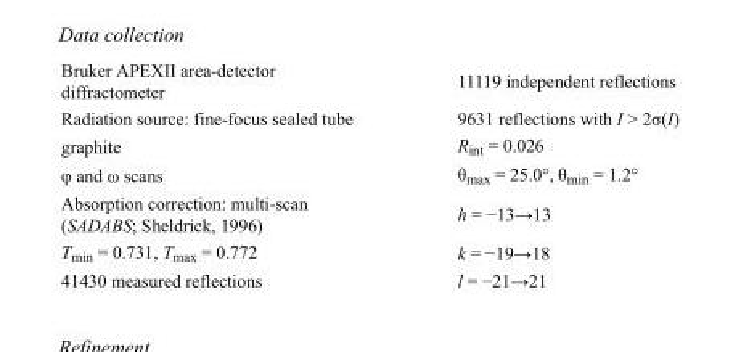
<table><tbody><tr><td>Bruker APEXII area-detector diffractometer</td><td>11119 independent reflections</td></tr><tr><td>Radiation source: fine-focus sealed tube</td><td>9631 reflections with I &gt; 2σ(I)</td></tr><tr><td>graphite</td><td>R<sub>int</sub> = 0.026</td></tr><tr><td>φ and ω scans</td><td>θ<sub>max</sub> = 25.0°, θ<sub>min</sub> = 1.2°</td></tr><tr><td>Absorption correction: multi-scan (SADABS; Sheldrick, 1996)</td><td>h = −13→13</td></tr><tr><td>T<sub>min</sub> = 0.731, T<sub>max</sub> = 0.772</td><td>k = −19→18</td></tr><tr><td>41430 measured reflections</td><td>l = −21→21</td></tr></tbody></table>